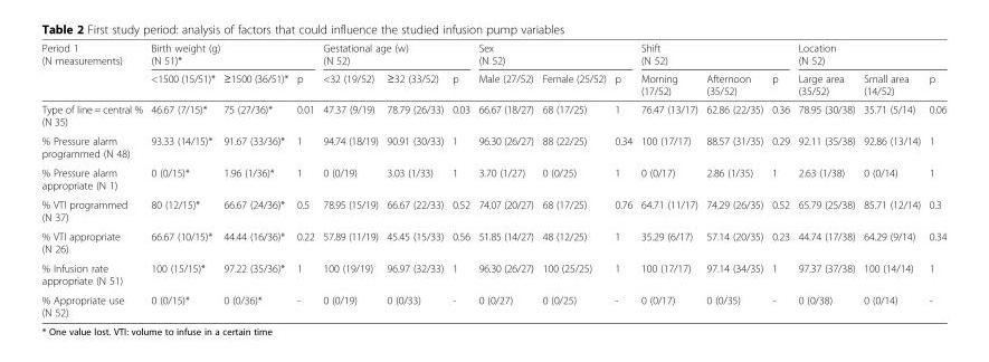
<table><thead><tr><td rowspan="3">Period 1 (N measurements)</td><td rowspan="2" colspan="3">Birth weight (g) (N 51)*</td><td rowspan="2" colspan="3">Gestational age (w) (N 52)</td><td rowspan="2" colspan="3">Sex (N 52)</td><td rowspan="2" colspan="3">Shift (N 52)</td><td rowspan="2" colspan="3">Location (N 52)</td></tr><tr></tr><tr><td>&lt;1500 (15/51)*</td><td>≥1500 (36/51)*</td><td>p</td><td>&lt;32 (19/52)</td><td>≥32 (33/52)</td><td>p</td><td>Male (27/52)</td><td>Female (25/52)</td><td>p</td><td>Morning (17/52)</td><td>Afternoon (35/52)</td><td>p</td><td>Large area (35/52)</td><td>Small area (14/52)</td><td>p</td></tr></thead><tbody><tr><td>Type of line = central % (N 35)</td><td>46.67 (7/15)*</td><td>75 (27/36)*</td><td>0.01</td><td>47.37 (9/19)</td><td>78.79 (26/33)</td><td>0.03</td><td>66.67 (18/27)</td><td>68 (17/25)</td><td>1</td><td>76.47 (13/17)</td><td>62.86 (22/35)</td><td>0.36</td><td>78.95 (30/38)</td><td>35.71 (5/14)</td><td>0.06</td></tr><tr><td>% Pressure alarm programmed (N 48)</td><td>93.33 (14/15)*</td><td>91.67 (33/36)*</td><td>1</td><td>94.74 (18/19)</td><td>90.91 (30/33)</td><td>1</td><td>96.30 (26/27)</td><td>88 (22/25)</td><td>0.34</td><td>100 (17/17)</td><td>88.57 (31/35)</td><td>0.29</td><td>92.11 (35/38)</td><td>92.86 (13/14)</td><td>1</td></tr><tr><td>% Pressure alarm appropriate (N 1)</td><td>0 (0/15)*</td><td>1.96 (1/36)*</td><td>1</td><td>0 (0/19)</td><td>3.03 (1/33)</td><td>1</td><td>3.70 (1/27)</td><td>0 (0/25)</td><td>1</td><td>0 (0/17)</td><td>2.86 (1/35)</td><td>1</td><td>2.63 (1/38)</td><td>0 (0/14)</td><td>1</td></tr><tr><td>% VTI programmed (N 37)</td><td>80 (12/15)*</td><td>66.67 (24/36)*</td><td>0.5</td><td>78.95 (15/19)</td><td>66.67 (22/33)</td><td>0.52</td><td>74.07 (20/27)</td><td>68 (17/25)</td><td>0.76</td><td>64.71 (11/17)</td><td>74.29 (26/35)</td><td>0.52</td><td>65.79 (25/38)</td><td>85.71 (12/14)</td><td>0.3</td></tr><tr><td>% VTI appropriate (N 26)</td><td>66.67 (10/15)*</td><td>44.44 (16/36)*</td><td>0.22</td><td>57.89 (11/19)</td><td>45.45 (15/33)</td><td>0.56</td><td>51.85 (14/27)</td><td>48 (12/25)</td><td>1</td><td>35.29 (6/17)</td><td>57.14 (20/35)</td><td>0.23</td><td>44.74 (17/38)</td><td>64.29 (9/14)</td><td>0.34</td></tr><tr><td>% Infusion rate appropriate (N 51)</td><td>100 (15/15)*</td><td>97.22 (35/36)*</td><td>1</td><td>100 (19/19)</td><td>96.97 (32/33)</td><td>1</td><td>96.30 (26/27)</td><td>100 (25/25)</td><td>1</td><td>100 (17/17)</td><td>97.14 (34/35)</td><td>1</td><td>97.37 (37/38)</td><td>100 (14/14)</td><td>1</td></tr><tr><td>% Appropriate use (N 52)</td><td>0 (0/15)*</td><td>0 (0/36)*</td><td>-</td><td>0 (0/19)</td><td>0 (0/33)</td><td>-</td><td>0 (0/27)</td><td>0 (0/25)</td><td>-</td><td>0 (0/17)</td><td>0 (0/35)</td><td>-</td><td>0 (0/38)</td><td>0 (0/14)</td><td>-</td></tr></tbody></table>